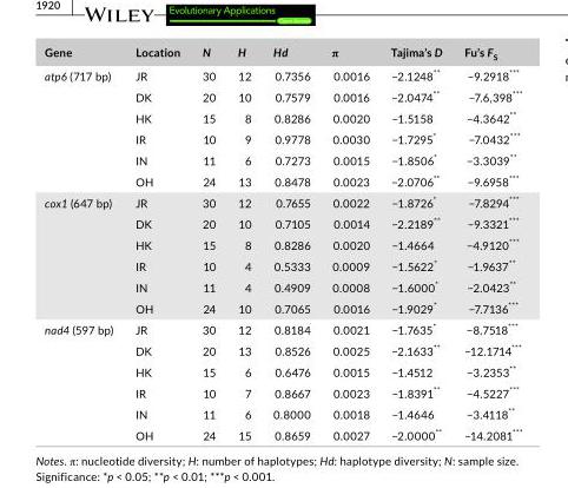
<table><thead><tr><td>Gene</td><td>Location</td><td>N</td><td>H</td><td>Hd</td><td>π</td><td>Tajima’s D</td><td>Fu’s F<sub>S</sub></td></tr></thead><tbody><tr><td rowspan="6">atp6 (717 bp)</td><td>JR</td><td>30</td><td>12</td><td>0.7356</td><td>0.0016</td><td>−2.1248**</td><td>−9.2918***</td></tr><tr><td>DK</td><td>20</td><td>10</td><td>0.7579</td><td>0.0016</td><td>−2.0474**</td><td>−7.6,398***</td></tr><tr><td>HK</td><td>15</td><td>8</td><td>0.8286</td><td>0.0020</td><td>−1.5158</td><td>−4.3642**</td></tr><tr><td>IR</td><td>10</td><td>9</td><td>0.9778</td><td>0.0030</td><td>−1.7295*</td><td>−7.0432***</td></tr><tr><td>IN</td><td>11</td><td>6</td><td>0.7273</td><td>0.0015</td><td>−1.8506*</td><td>−3.3039**</td></tr><tr><td>OH</td><td>24</td><td>13</td><td>0.8478</td><td>0.0023</td><td>−2.0706**</td><td>−9.6958***</td></tr><tr><td rowspan="6">cox1 (647 bp)</td><td>JR</td><td>30</td><td>12</td><td>0.7655</td><td>0.0022</td><td>−1.8726*</td><td>−7.8294***</td></tr><tr><td>DK</td><td>20</td><td>10</td><td>0.7105</td><td>0.0014</td><td>−2.2189**</td><td>−9.3321***</td></tr><tr><td>HK</td><td>15</td><td>8</td><td>0.8286</td><td>0.0020</td><td>−1.4664</td><td>−4.9120***</td></tr><tr><td>IR</td><td>10</td><td>4</td><td>0.5333</td><td>0.0009</td><td>−1.5622*</td><td>−1.9637**</td></tr><tr><td>IN</td><td>11</td><td>4</td><td>0.4909</td><td>0.0008</td><td>−1.6000*</td><td>−2.0423**</td></tr><tr><td>OH</td><td>24</td><td>10</td><td>0.7065</td><td>0.0016</td><td>−1.9029*</td><td>−7.7136***</td></tr><tr><td rowspan="6">nad4 (597 bp)</td><td>JR</td><td>30</td><td>12</td><td>0.8184</td><td>0.0021</td><td>−1.7635*</td><td>−8.7518***</td></tr><tr><td>DK</td><td>20</td><td>13</td><td>0.8526</td><td>0.0025</td><td>−2.1633**</td><td>−12.1714***</td></tr><tr><td>HK</td><td>15</td><td>6</td><td>0.6476</td><td>0.0015</td><td>−1.4512</td><td>−3.2353**</td></tr><tr><td>IR</td><td>10</td><td>7</td><td>0.8667</td><td>0.0023</td><td>−1.8391**</td><td>−4.5227***</td></tr><tr><td>IN</td><td>11</td><td>6</td><td>0.8000</td><td>0.0018</td><td>−1.4646</td><td>−3.4118**</td></tr><tr><td>OH</td><td>24</td><td>15</td><td>0.8659</td><td>0.0027</td><td>−2.0000**</td><td>−14.2081***</td></tr></tbody></table>